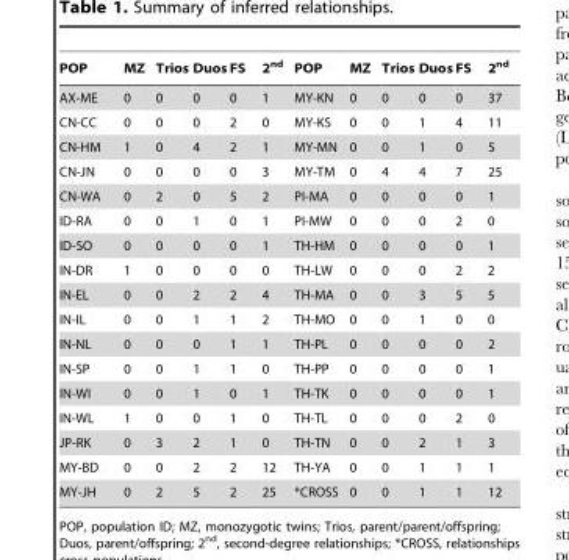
<table><thead><tr><td>POP</td><td>MZ</td><td>Trios</td><td>Duos</td><td>FS</td><td>2<sup>nd</sup></td><td>POP</td><td>MZ</td><td>Trios</td><td>Duos</td><td>FS</td><td>2<sup>nd</sup></td></tr></thead><tbody><tr><td>AX-ME</td><td>0</td><td>0</td><td>0</td><td>0</td><td>1</td><td>MY-KN</td><td>0</td><td>0</td><td>0</td><td>0</td><td>37</td></tr><tr><td>CN-CC</td><td>0</td><td>0</td><td>0</td><td>2</td><td>0</td><td>MY-KS</td><td>0</td><td>0</td><td>1</td><td>4</td><td>11</td></tr><tr><td>CN-HM</td><td>1</td><td>0</td><td>4</td><td>2</td><td>1</td><td>MY-MN</td><td>0</td><td>0</td><td>1</td><td>0</td><td>5</td></tr><tr><td>CN-JN</td><td>0</td><td>0</td><td>0</td><td>0</td><td>3</td><td>MY-TM</td><td>0</td><td>4</td><td>4</td><td>7</td><td>25</td></tr><tr><td>CN-WA</td><td>0</td><td>2</td><td>0</td><td>5</td><td>2</td><td>PI-MA</td><td>0</td><td>0</td><td>0</td><td>0</td><td>1</td></tr><tr><td>ID-RA</td><td>0</td><td>0</td><td>1</td><td>0</td><td>1</td><td>PI-MW</td><td>0</td><td>0</td><td>0</td><td>2</td><td>0</td></tr><tr><td>ID-SO</td><td>0</td><td>0</td><td>0</td><td>0</td><td>1</td><td>TH-HM</td><td>0</td><td>0</td><td>0</td><td>0</td><td>1</td></tr><tr><td>IN-DR</td><td>1</td><td>0</td><td>0</td><td>0</td><td>0</td><td>TH-LW</td><td>0</td><td>0</td><td>0</td><td>2</td><td>2</td></tr><tr><td>IN-EL</td><td>0</td><td>0</td><td>2</td><td>2</td><td>4</td><td>TH-MA</td><td>0</td><td>0</td><td>3</td><td>5</td><td>5</td></tr><tr><td>IN-IL</td><td>0</td><td>0</td><td>1</td><td>1</td><td>2</td><td>TH-MO</td><td>0</td><td>0</td><td>1</td><td>0</td><td>0</td></tr><tr><td>IN-NL</td><td>0</td><td>0</td><td>0</td><td>1</td><td>1</td><td>TH-PL</td><td>0</td><td>0</td><td>0</td><td>0</td><td>2</td></tr><tr><td>IN-SP</td><td>0</td><td>0</td><td>1</td><td>1</td><td>0</td><td>TH-PP</td><td>0</td><td>0</td><td>0</td><td>0</td><td>1</td></tr><tr><td>IN-WI</td><td>0</td><td>0</td><td>1</td><td>0</td><td>1</td><td>TH-TK</td><td>0</td><td>0</td><td>0</td><td>0</td><td>1</td></tr><tr><td>IN-WL</td><td>1</td><td>0</td><td>0</td><td>1</td><td>0</td><td>TH-TL</td><td>0</td><td>0</td><td>0</td><td>2</td><td>0</td></tr><tr><td>JP-RK</td><td>0</td><td>3</td><td>2</td><td>1</td><td>0</td><td>TH-TN</td><td>0</td><td>0</td><td>2</td><td>1</td><td>3</td></tr><tr><td>MY-BD</td><td>0</td><td>0</td><td>2</td><td>2</td><td>12</td><td>TH-YA</td><td>0</td><td>0</td><td>1</td><td>1</td><td>1</td></tr><tr><td>MY-JH</td><td>0</td><td>2</td><td>5</td><td>2</td><td>25</td><td>*CROSS</td><td>0</td><td>0</td><td>1</td><td>1</td><td>12</td></tr></tbody></table>